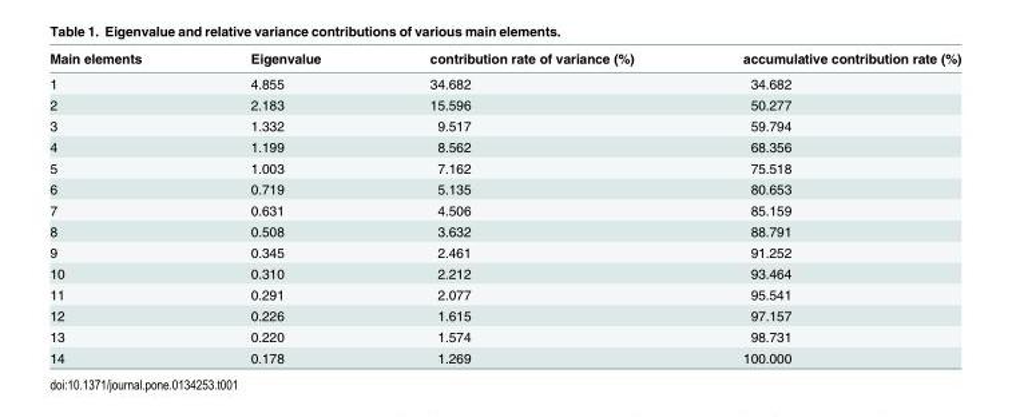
<table><thead><tr><td>Main elements</td><td>Eigenvalue</td><td>contribution rate of variance (%)</td><td>accumulative contribution rate (%)</td></tr></thead><tbody><tr><td>1</td><td>4.855</td><td>34.682</td><td>34.682</td></tr><tr><td>2</td><td>2.183</td><td>15.596</td><td>50.277</td></tr><tr><td>3</td><td>1.332</td><td>9.517</td><td>59.794</td></tr><tr><td>4</td><td>1.199</td><td>8.562</td><td>68.356</td></tr><tr><td>5</td><td>1.003</td><td>7.162</td><td>75.518</td></tr><tr><td>6</td><td>0.719</td><td>5.135</td><td>80.653</td></tr><tr><td>7</td><td>0.631</td><td>4.506</td><td>85.159</td></tr><tr><td>8</td><td>0.508</td><td>3.632</td><td>88.791</td></tr><tr><td>9</td><td>0.345</td><td>2.461</td><td>91.252</td></tr><tr><td>10</td><td>0.310</td><td>2.212</td><td>93.464</td></tr><tr><td>11</td><td>0.291</td><td>2.077</td><td>95.541</td></tr><tr><td>12</td><td>0.226</td><td>1.615</td><td>97.157</td></tr><tr><td>13</td><td>0.220</td><td>1.574</td><td>98.731</td></tr><tr><td>14</td><td>0.178</td><td>1.269</td><td>100.000</td></tr></tbody></table>